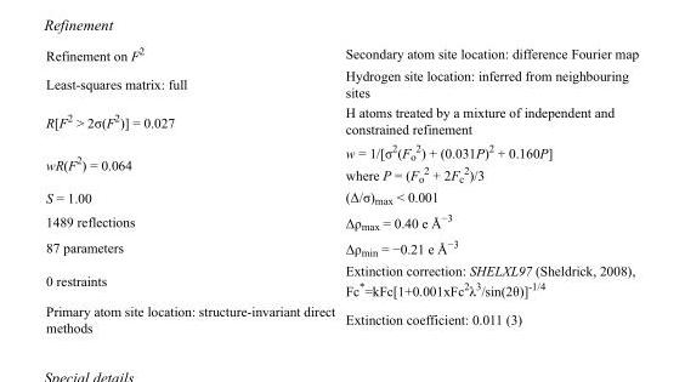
<table><tbody><tr><td>Refinement on F<sup>2</sup></td><td>Secondary atom site location: difference Fourier map</td></tr><tr><td>Least-squares matrix: full</td><td>Hydrogen site location: inferred from neighbouring sites</td></tr><tr><td>R[F<sup>2</sup> &gt; 2σ(F<sup>2</sup>)] = 0.027</td><td>H atoms treated by a mixture of independent and constrained refinement</td></tr><tr><td>wR(F<sup>2</sup>) = 0.064</td><td>w = 1/[σ<sup>2</sup>(F<sub>o</sub> <sup>2</sup>) + (0.031P)<sup>2</sup> + 0.160P] where P = (F<sub>o</sub> <sup>2</sup> + 2F<sub>c</sub> <sup>2</sup>)/3</td></tr><tr><td>S = 1.00</td><td>(Δ/σ)<sub>max</sub> &lt; 0.001</td></tr><tr><td>1489 reflections</td><td>Δρ<sub>max</sub> = 0.40 e Å<sup>−3</sup></td></tr><tr><td>87 parameters</td><td>Δρ<sub>min</sub> = −0.21 e Å<sup>−3</sup></td></tr><tr><td>0 restraints</td><td>Extinction correction: SHELXL97 (Sheldrick, 2008), Fc*=kFc[1+0.001xFc<sup>2</sup>λ<sup>3</sup>/sin(2θ)]<sup>-1/4</sup></td></tr><tr><td>Primary atom site location: structure-invariant direct methods</td><td>Extinction coefficient: 0.011 (3)</td></tr></tbody></table>